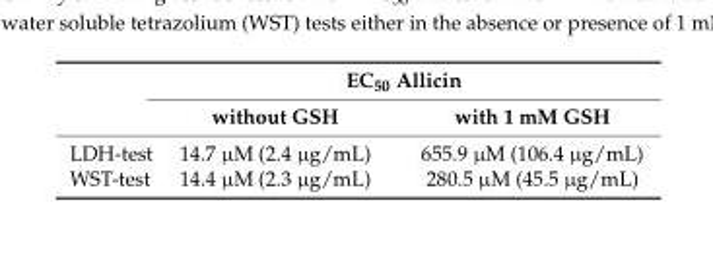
<table><thead><tr><td rowspan="2"></td><td colspan="2">EC50 Allicin</td></tr><tr><td>without GSH</td><td>with 1 mM GSH</td></tr></thead><tbody><tr><td>LDH-test</td><td>14.7 µM (2.4 µg/mL)</td><td>655.9 µM (106.4 µg/mL)</td></tr><tr><td>WST-test</td><td>14.4 µM (2.3 µg/mL)</td><td>280.5 µM (45.5 µg/mL)</td></tr></tbody></table>